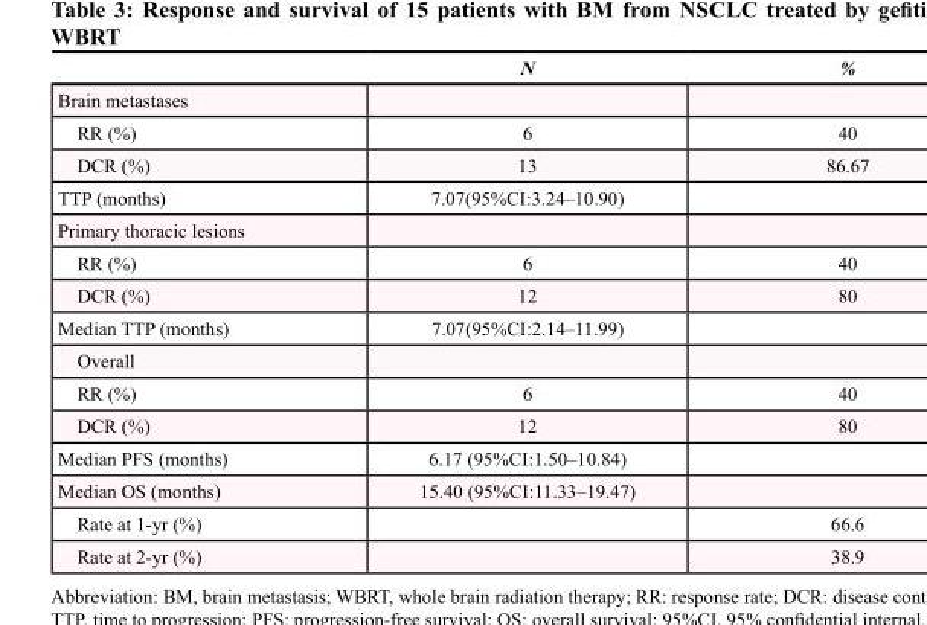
<table><thead><tr><td></td><td>N</td><td>%</td></tr></thead><tbody><tr><td colspan="3">Brain metastases</td></tr><tr><td>RR (%)</td><td>6</td><td>40</td></tr><tr><td>DCR (%)</td><td>13</td><td>86.67</td></tr><tr><td>TTP (months)</td><td>7.07(95%CI:3.24–10.90)</td><td></td></tr><tr><td colspan="3">Primary thoracic lesions</td></tr><tr><td>RR (%)</td><td>6</td><td>40</td></tr><tr><td>DCR (%)</td><td>12</td><td>80</td></tr><tr><td>Median TTP (months)</td><td>7.07(95%CI:2.14–11.99)</td><td></td></tr><tr><td colspan="3">Overall</td></tr><tr><td>RR (%)</td><td>6</td><td>40</td></tr><tr><td>DCR (%)</td><td>12</td><td>80</td></tr><tr><td>Median PFS (months)</td><td>6.17 (95%CI:1.50–10.84)</td><td></td></tr><tr><td>Median OS (months)</td><td>15.40 (95%CI:11.33–19.47)</td><td></td></tr><tr><td>Rate at 1-yr (%)</td><td></td><td>66.6</td></tr><tr><td>Rate at 2-yr (%)</td><td></td><td>38.9</td></tr></tbody></table>